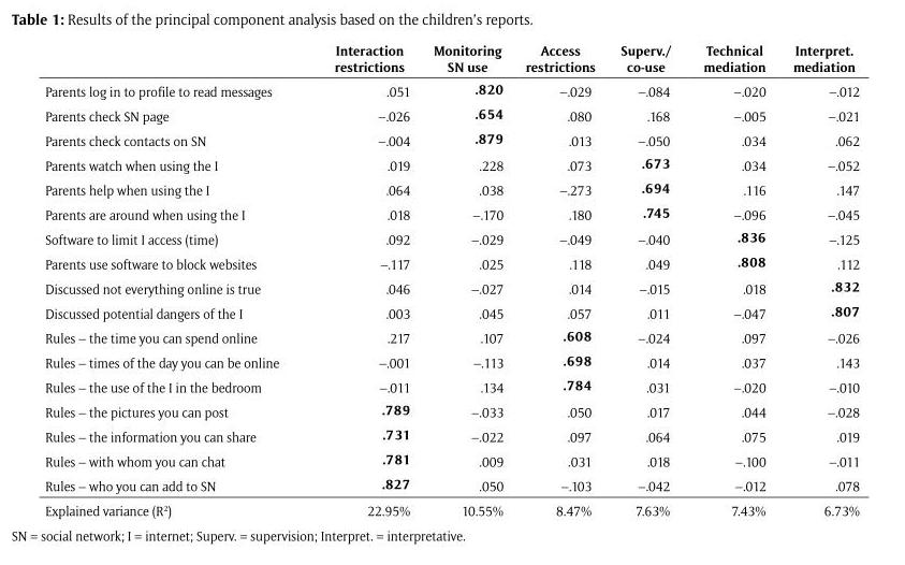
<table><thead><tr><td></td><td>Interaction restrictions</td><td>Monitoring SN use</td><td>Access restrictions</td><td>Superv./ co-use</td><td>Technical mediation</td><td>Interpret. mediation</td></tr></thead><tbody><tr><td>Parents log in to profile to read messages</td><td>.051</td><td>.820</td><td>–.029</td><td>–.084</td><td>–.020</td><td>–.012</td></tr><tr><td>Parents check SN page</td><td>–.026</td><td>.654</td><td>.080</td><td>.168</td><td>–.005</td><td>–.021</td></tr><tr><td>Parents check contacts on SN</td><td>–.004</td><td>.879</td><td>.013</td><td>–.050</td><td>.034</td><td>.062</td></tr><tr><td>Parents watch when using the I</td><td>.019</td><td>.228</td><td>.073</td><td>.673</td><td>.034</td><td>–.052</td></tr><tr><td>Parents help when using the I</td><td>.064</td><td>.038</td><td>–.273</td><td>.694</td><td>.116</td><td>.147</td></tr><tr><td>Parents are around when using the I</td><td>.018</td><td>–.170</td><td>.180</td><td>.745</td><td>–.096</td><td>–.045</td></tr><tr><td>Software to limit I access (time)</td><td>.092</td><td>–.029</td><td>–.049</td><td>–.040</td><td>.836</td><td>–.125</td></tr><tr><td>Parents use software to block websites</td><td>–.117</td><td>.025</td><td>.118</td><td>.049</td><td>.808</td><td>.112</td></tr><tr><td>Discussed not everything online is true</td><td>.046</td><td>–.027</td><td>.014</td><td>–.015</td><td>.018</td><td>.832</td></tr><tr><td>Discussed potential dangers of the I</td><td>.003</td><td>.045</td><td>.057</td><td>.011</td><td>–.047</td><td>.807</td></tr><tr><td>Rules – the time you can spend online</td><td>.217</td><td>.107</td><td>.608</td><td>–.024</td><td>.097</td><td>–.026</td></tr><tr><td>Rules – times of the day you can be online</td><td>–.001</td><td>–.113</td><td>.698</td><td>.014</td><td>.037</td><td>.143</td></tr><tr><td>Rules – the use of the I in the bedroom</td><td>–.011</td><td>.134</td><td>.784</td><td>.031</td><td>–.020</td><td>–.010</td></tr><tr><td>Rules – the pictures you can post</td><td>.789</td><td>–.033</td><td>.050</td><td>.017</td><td>.044</td><td>–.028</td></tr><tr><td>Rules – the information you can share</td><td>.731</td><td>–.022</td><td>.097</td><td>.064</td><td>.075</td><td>.019</td></tr><tr><td>Rules – with whom you can chat</td><td>.781</td><td>.009</td><td>.031</td><td>.018</td><td>–.100</td><td>–.011</td></tr><tr><td>Rules – who you can add to SN</td><td>.827</td><td>.050</td><td>–.103</td><td>–.042</td><td>–.012</td><td>.078</td></tr><tr><td>Explained variance (R<sup>2</sup>)</td><td>22.95%</td><td>10.55%</td><td>8.47%</td><td>7.63%</td><td>7.43%</td><td>6.73%</td></tr></tbody></table>